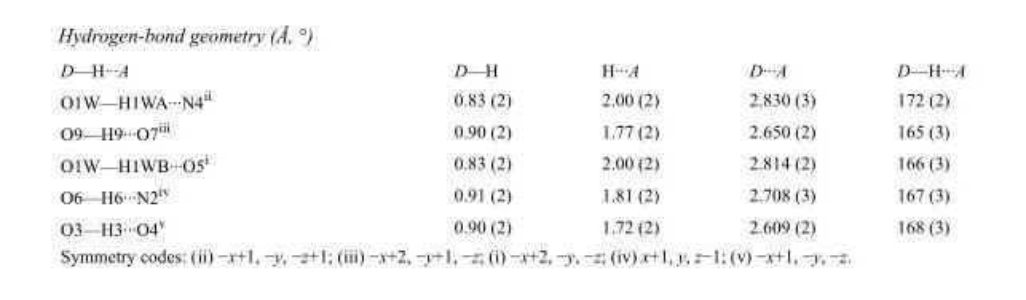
<table><tbody><tr><td>D—H···A</td><td>D—H</td><td>H···A</td><td>D···A</td><td>D—H···A</td></tr><tr><td>O1W—H1WA···N4<sup>ii</sup></td><td>0.83 (2)</td><td>2.00 (2)</td><td>2.830 (3)</td><td>172 (2)</td></tr><tr><td>O9—H9···O7<sup>iii</sup></td><td>0.90 (2)</td><td>1.77 (2)</td><td>2.650 (2)</td><td>165 (3)</td></tr><tr><td>O1W—H1WB···O5<sup>i</sup></td><td>0.83 (2)</td><td>2.00 (2)</td><td>2.814 (2)</td><td>166 (3)</td></tr><tr><td>O6—H6···N2<sup>iv</sup></td><td>0.91 (2)</td><td>1.81 (2)</td><td>2.708 (3)</td><td>167 (3)</td></tr><tr><td>O3—H3···O4<sup>v</sup></td><td>0.90 (2)</td><td>1.72 (2)</td><td>2.609 (2)</td><td>168 (3)</td></tr></tbody></table>